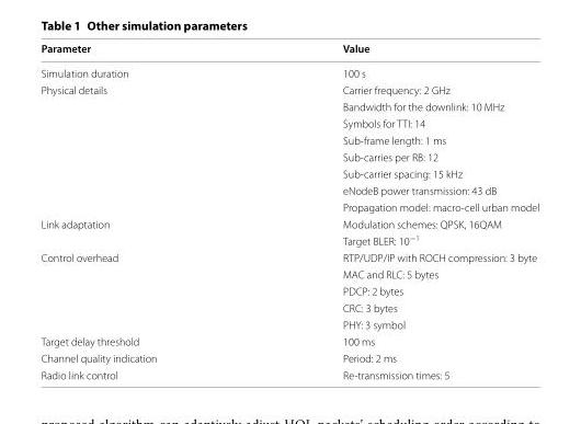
<table><thead><tr><td>Parameter</td><td>Value</td></tr></thead><tbody><tr><td>Simulation duration</td><td>100 s</td></tr><tr><td rowspan="8">Physical details</td><td>Carrier frequency: 2 GHz</td></tr><tr><td>Bandwidth for the downlink: 10 MHz</td></tr><tr><td>Symbols for TTI: 14</td></tr><tr><td>Sub-frame length: 1 ms</td></tr><tr><td>Sub-carries per RB: 12</td></tr><tr><td>Sub-carrier spacing: 15 kHz</td></tr><tr><td>eNodeB power transmission: 43 dB</td></tr><tr><td>Propagation model: macro-cell urban model</td></tr><tr><td rowspan="2">Link adaptation</td><td>Modulation schemes: QPSK, 16QAM</td></tr><tr><td>Target BLER: 10<sup>−1</sup></td></tr><tr><td rowspan="5">Control overhead</td><td>RTP/UDP/IP with ROCH compression: 3 byte</td></tr><tr><td>MAC and RLC: 5 bytes</td></tr><tr><td>PDCP: 2 bytes</td></tr><tr><td>CRC: 3 bytes</td></tr><tr><td>PHY: 3 symbol</td></tr><tr><td>Target delay threshold</td><td>100 ms</td></tr><tr><td>Channel quality indication</td><td>Period: 2 ms</td></tr><tr><td>Radio link control</td><td>Re-transmission times: 5</td></tr></tbody></table>